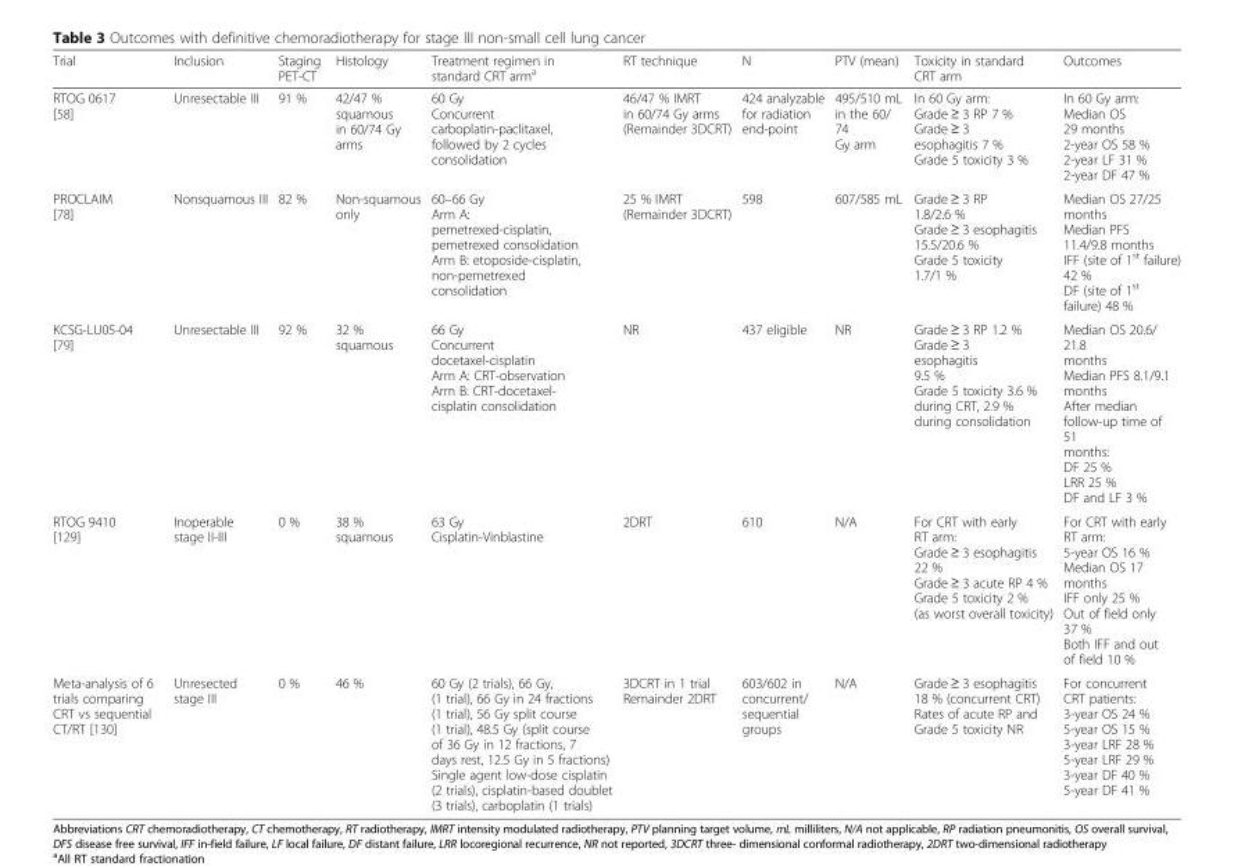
<table><thead><tr><td>Trial</td><td>Inclusion</td><td>Staging PET-CT</td><td>Histology</td><td>Treatment regimen in standard CRT arm<sup>a</sup></td><td>RT technique</td><td>N</td><td>PTV (mean)</td><td>Toxicity in standard CRT arm</td><td>Outcomes</td></tr></thead><tbody><tr><td>RTOG 0617 [58]</td><td>Unresectable III</td><td>91 %</td><td>42/47 % squamous in 60/74 Gy arms</td><td>60 Gy Concurrent carboplatin-paclitaxel, followed by 2 cycles consolidation</td><td>46/47 % IMRT in 60/74 Gy arms (Remainder 3DCRT)</td><td>424 analyzable for radiation end-point</td><td>495/510 mL in the 60/ 74 Gy arm</td><td>In 60 Gy arm: Grade ≥ 3 RP 7 % Grade ≥ 3 esophagitis 7 % Grade 5 toxicity 3 %</td><td>In 60 Gy arm: Median OS 29 months 2-year OS 58 % 2-year LF 31 % 2-year DF 47 %</td></tr><tr><td>PROCLAIM [78]</td><td>Nonsquamous III</td><td>82 %</td><td>Non-squamous only</td><td>60–66 Gy Arm A: pemetrexed-cisplatin, pemetrexed consolidation Arm B: etoposide-cisplatin, non-pemetrexed consolidation</td><td>25 % IMRT (Remainder 3DCRT)</td><td>598</td><td>607/585 mL</td><td>Grade ≥ 3 RP 1.8/2.6 % Grade ≥ 3 esophagitis 15.5/20.6 % Grade 5 toxicity 1.7/1 %</td><td>Median OS 27/25 months Median PFS 11.4/9.8 months IFF (site of 1<sup>st</sup> failure) 42 % DF (site of 1<sup>st</sup> failure) 48 %</td></tr><tr><td>KCSG-LU05-04 [79]</td><td>Unresectable III</td><td>92 %</td><td>32 % squamous</td><td>66 Gy Concurrent docetaxel-cisplatin Arm A: CRT-observation Arm B: CRT-docetaxel- cisplatin consolidation</td><td>NR</td><td>437 eligible</td><td>NR</td><td>Grade ≥ 3 RP 1.2 % Grade ≥ 3 esophagitis 9.5 % Grade 5 toxicity 3.6 % during CRT, 2.9 % during consolidation</td><td>Median OS 20.6/ 21.8 months Median PFS 8.1/9.1 months After median follow-up time of 51 months: DF 25 % LRR 25 % DF and LF 3 %</td></tr><tr><td>RTOG 9410 [129]</td><td>Inoperable stage II-III</td><td>0 %</td><td>38 % squamous</td><td>63 Gy Cisplatin-Vinblastine</td><td>2DRT</td><td>610</td><td>N/A</td><td>For CRT with early RT arm: Grade ≥ 3 esophagitis 22 % Grade ≥ 3 acute RP 4 % Grade 5 toxicity 2 % (as worst overall toxicity)</td><td>For CRT with early RT arm: 5-year OS 16 % Median OS 17 months IFF only 25 % Out of field only 37 % Both IFF and out of field 10 %</td></tr><tr><td>Meta-analysis of 6 trials comparing CRT vs sequential CT/RT [130]</td><td>Unresected stage III</td><td>0 %</td><td>46 %</td><td>60 Gy (2 trials), 66 Gy, (1 trial), 66 Gy in 24 fractions (1 trial), 56 Gy split course (1 trial), 48.5 Gy (split course of 36 Gy in 12 fractions, 7 days rest, 12.5 Gy in 5 fractions) Single agent low-dose cisplatin (2 trials), cisplatin-based doublet (3 trials), carboplatin (1 trials)</td><td>3DCRT in 1 trial Remainder 2DRT</td><td>603/602 in concurrent/ sequential groups</td><td>N/A</td><td>Grade ≥ 3 esophagitis 18 % (concurrent CRT) Rates of acute RP and Grade 5 toxicity NR</td><td>For concurrent CRT patients: 3-year OS 24 % 5-year OS 15 % 3-year LRF 28 % 5-year LRF 29 % 3-year DF 40 % 5-year DF 41 %</td></tr></tbody></table>